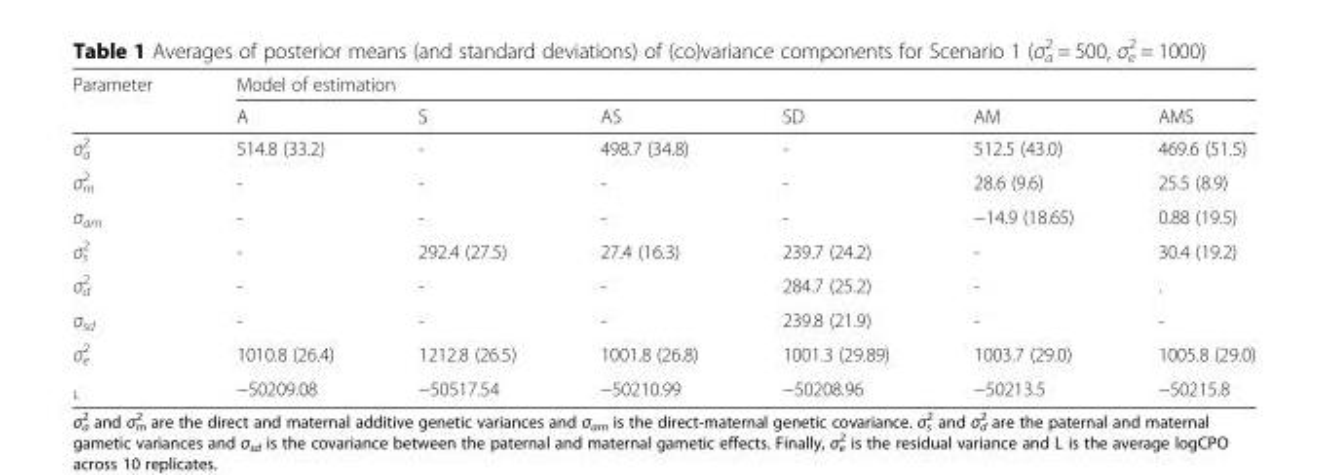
<table><thead><tr><td rowspan="2">Parameter</td><td colspan="6">Model of estimation</td></tr><tr><td>A</td><td>S</td><td>AS</td><td>SD</td><td>AM</td><td>AMS</td></tr></thead><tbody><tr><td>σ<sub>a</sub> <sup>2</sup></td><td>514.8 (33.2)</td><td>-</td><td>498.7 (34.8)</td><td>-</td><td>512.5 (43.0)</td><td>469.6 (51.5)</td></tr><tr><td>σ<sub>m</sub> <sup>2</sup></td><td>-</td><td>-</td><td>-</td><td>-</td><td>28.6 (9.6)</td><td>25.5 (8.9)</td></tr><tr><td>σ<sub>am</sub></td><td>-</td><td>-</td><td>-</td><td>-</td><td>−14.9 (18.65)</td><td>0.88 (19.5)</td></tr><tr><td>σ<sub>s</sub> <sup>2</sup></td><td>-</td><td>292.4 (27.5)</td><td>27.4 (16.3)</td><td>239.7 (24.2)</td><td>-</td><td>30.4 (19.2)</td></tr><tr><td>σ<sub>d</sub> <sup>2</sup></td><td>-</td><td>-</td><td>-</td><td>284.7 (25.2)</td><td>-</td><td>.</td></tr><tr><td>σ<sub>sd</sub></td><td>-</td><td>-</td><td>-</td><td>239.8 (21.9)</td><td>-</td><td>-</td></tr><tr><td>σ<sub>e</sub> <sup>2</sup></td><td>1010.8 (26.4)</td><td>1212.8 (26.5)</td><td>1001.8 (26.8)</td><td>1001.3 (29.89)</td><td>1003.7 (29.0)</td><td>1005.8 (29.0)</td></tr><tr><td><sub>L</sub></td><td>−50209.08</td><td>−50517.54</td><td>−50210.99</td><td>−50208.96</td><td>−50213.5</td><td>−50215.8</td></tr></tbody></table>